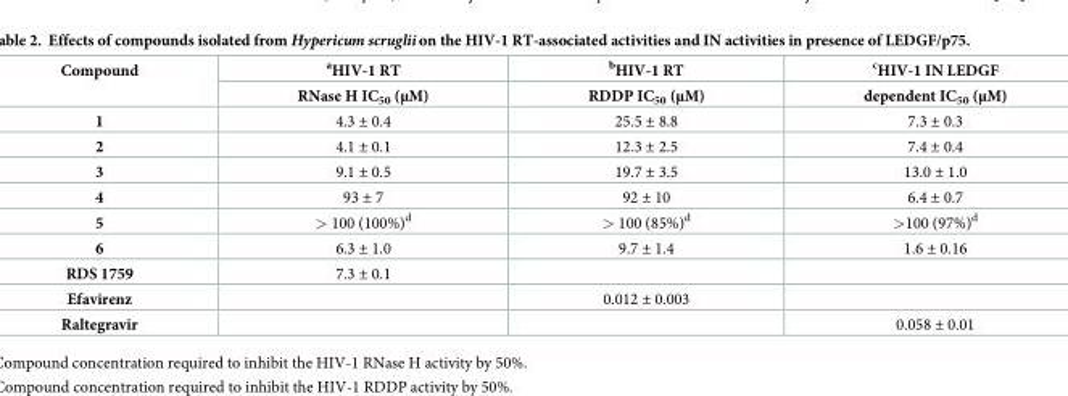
<table><thead><tr><td rowspan="2">Compound</td><td rowspan="2"><sup>a</sup>HIV-1 RT RNase H IC<sub>50</sub> (μM)</td><td rowspan="2"><sup>b</sup>HIV-1 RT RDDP IC<sub>50</sub> (μM)</td><td rowspan="2"><sup>c</sup>HIV-1 IN LEDGF dependent IC<sub>50</sub> (μM)</td></tr><tr></tr></thead><tbody><tr><td>1</td><td>4.3 ± 0.4</td><td>25.5 ± 8.8</td><td>7.3 ± 0.3</td></tr><tr><td>2</td><td>4.1 ± 0.1</td><td>12.3 ± 2.5</td><td>7.4 ± 0.4</td></tr><tr><td>3</td><td>9.1 ± 0.5</td><td>19.7 ± 3.5</td><td>13.0 ± 1.0</td></tr><tr><td>4</td><td>93 ± 7</td><td>92 ± 10</td><td>6.4 ± 0.7</td></tr><tr><td>5</td><td>&gt; 100 (100%)<sup>d</sup></td><td>&gt; 100 (85%)<sup>d</sup></td><td>&gt;100 (97%)<sup>d</sup></td></tr><tr><td>6</td><td>6.3 ± 1.0</td><td>9.7 ± 1.4</td><td>1.6 ± 0.16</td></tr><tr><td>RDS 1759</td><td>7.3 ± 0.1</td><td></td><td></td></tr><tr><td>Efavirenz</td><td></td><td>0.012 ± 0.003</td><td></td></tr><tr><td>Raltegravir</td><td></td><td></td><td>0.058 ± 0.01</td></tr></tbody></table>